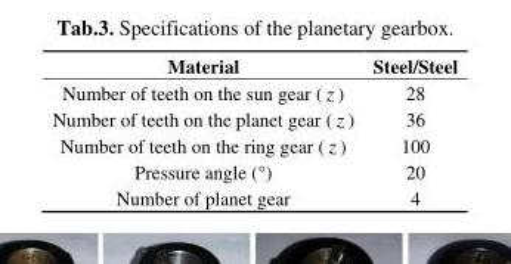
<table><thead><tr><td>Material</td><td>Steel/Steel</td></tr></thead><tbody><tr><td>Number of teeth on the sun gear ( z )</td><td>28</td></tr><tr><td>Number of teeth on the planet gear ( z )</td><td>36</td></tr><tr><td>Number of teeth on the ring gear ( z )</td><td>100</td></tr><tr><td>Pressure angle (°)</td><td>20</td></tr><tr><td>Number of planet gear</td><td>4</td></tr></tbody></table>